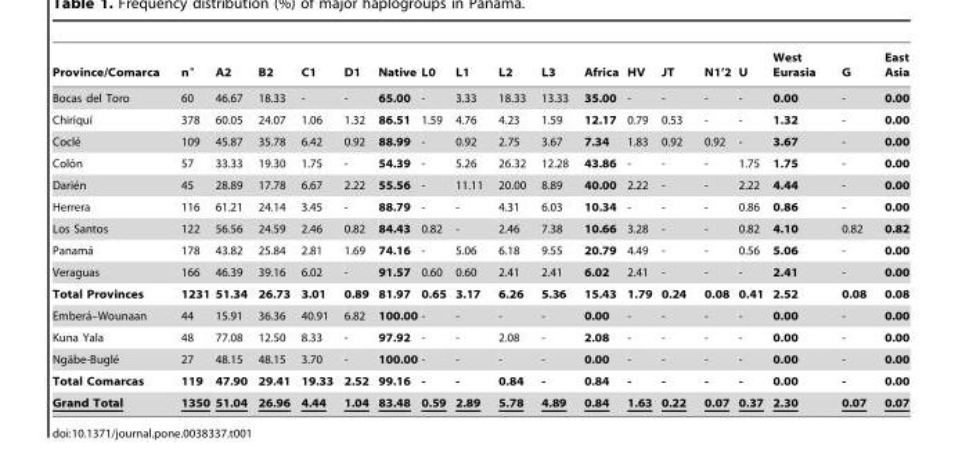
<table><thead><tr><td>Province/Comarca</td><td>n°</td><td>A2</td><td>B2</td><td>C1</td><td>D1</td><td>Native</td><td>L0</td><td>L1</td><td>L2</td><td>L3</td><td>Africa</td><td>HV</td><td>JT</td><td>N1’2</td><td>U</td><td>West Eurasia</td><td>G</td><td>East Asia</td></tr></thead><tbody><tr><td>Bocas del Toro</td><td>60</td><td>46.67</td><td>18.33</td><td>-</td><td>-</td><td>65.00</td><td>-</td><td>3.33</td><td>18.33</td><td>13.33</td><td>35.00</td><td>-</td><td>-</td><td>-</td><td>-</td><td>0.00</td><td>-</td><td>0.00</td></tr><tr><td>Chiriquı´</td><td>378</td><td>60.05</td><td>24.07</td><td>1.06</td><td>1.32</td><td>86.51</td><td>1.59</td><td>4.76</td><td>4.23</td><td>1.59</td><td>12.17</td><td>0.79</td><td>0.53</td><td>-</td><td>-</td><td>1.32</td><td>-</td><td>0.00</td></tr><tr><td>Cocle´</td><td>109</td><td>45.87</td><td>35.78</td><td>6.42</td><td>0.92</td><td>88.99</td><td>-</td><td>0.92</td><td>2.75</td><td>3.67</td><td>7.34</td><td>1.83</td><td>0.92</td><td>0.92</td><td>-</td><td>3.67</td><td>-</td><td>0.00</td></tr><tr><td>Colo´n</td><td>57</td><td>33.33</td><td>19.30</td><td>1.75</td><td>-</td><td>54.39</td><td>-</td><td>5.26</td><td>26.32</td><td>12.28</td><td>43.86</td><td>-</td><td>-</td><td>-</td><td>1.75</td><td>1.75</td><td>-</td><td>0.00</td></tr><tr><td>Darie´n</td><td>45</td><td>28.89</td><td>17.78</td><td>6.67</td><td>2.22</td><td>55.56</td><td>-</td><td>11.11</td><td>20.00</td><td>8.89</td><td>40.00</td><td>2.22</td><td>-</td><td>-</td><td>2.22</td><td>4.44</td><td>-</td><td>0.00</td></tr><tr><td>Herrera</td><td>116</td><td>61.21</td><td>24.14</td><td>3.45</td><td>-</td><td>88.79</td><td>-</td><td>-</td><td>4.31</td><td>6.03</td><td>10.34</td><td>-</td><td>-</td><td>-</td><td>0.86</td><td>0.86</td><td>-</td><td>0.00</td></tr><tr><td>Los Santos</td><td>122</td><td>56.56</td><td>24.59</td><td>2.46</td><td>0.82</td><td>84.43</td><td>0.82</td><td>-</td><td>2.46</td><td>7.38</td><td>10.66</td><td>3.28</td><td>-</td><td>-</td><td>0.82</td><td>4.10</td><td>0.82</td><td>0.82</td></tr><tr><td>Panama´</td><td>178</td><td>43.82</td><td>25.84</td><td>2.81</td><td>1.69</td><td>74.16</td><td>-</td><td>5.06</td><td>6.18</td><td>9.55</td><td>20.79</td><td>4.49</td><td>-</td><td>-</td><td>0.56</td><td>5.06</td><td>-</td><td>0.00</td></tr><tr><td>Veraguas</td><td>166</td><td>46.39</td><td>39.16</td><td>6.02</td><td>-</td><td>91.57</td><td>0.60</td><td>0.60</td><td>2.41</td><td>2.41</td><td>6.02</td><td>2.41</td><td>-</td><td>-</td><td>-</td><td>2.41</td><td>-</td><td>0.00</td></tr><tr><td>Total Provinces</td><td>1231</td><td>51.34</td><td>26.73</td><td>3.01</td><td>0.89</td><td>81.97</td><td>0.65</td><td>3.17</td><td>6.26</td><td>5.36</td><td>15.43</td><td>1.79</td><td>0.24</td><td>0.08</td><td>0.41</td><td>2.52</td><td>0.08</td><td>0.08</td></tr><tr><td>Embera´–Wounaan</td><td>44</td><td>15.91</td><td>36.36</td><td>40.91</td><td>6.82</td><td>100.00</td><td>-</td><td>-</td><td>-</td><td>-</td><td>0.00</td><td>-</td><td>-</td><td>-</td><td>-</td><td>0.00</td><td>-</td><td>0.00</td></tr><tr><td>Kuna Yala</td><td>48</td><td>77.08</td><td>12.50</td><td>8.33</td><td>-</td><td>97.92</td><td>-</td><td>-</td><td>2.08</td><td>-</td><td>2.08</td><td>-</td><td>-</td><td>-</td><td>-</td><td>0.00</td><td>-</td><td>0.00</td></tr><tr><td>Nga¨be-Bugle´</td><td>27</td><td>48.15</td><td>48.15</td><td>3.70</td><td>-</td><td>100.00</td><td>-</td><td>-</td><td>-</td><td>-</td><td>0.00</td><td>-</td><td>-</td><td>-</td><td>-</td><td>0.00</td><td>-</td><td>0.00</td></tr><tr><td>Total Comarcas</td><td>119</td><td>47.90</td><td>29.41</td><td>19.33</td><td>2.52</td><td>99.16</td><td>-</td><td>-</td><td>0.84</td><td>-</td><td>0.84</td><td>-</td><td>-</td><td>-</td><td>-</td><td>0.00</td><td>-</td><td>0.00</td></tr><tr><td>Grand Total</td><td>1350</td><td>51.04</td><td>26.96</td><td>4.44</td><td>1.04</td><td>83.48</td><td>0.59</td><td>2.89</td><td>5.78</td><td>4.89</td><td>0.84</td><td>1.63</td><td>0.22</td><td>0.07</td><td>0.37</td><td>2.30</td><td>0.07</td><td>0.07</td></tr></tbody></table>